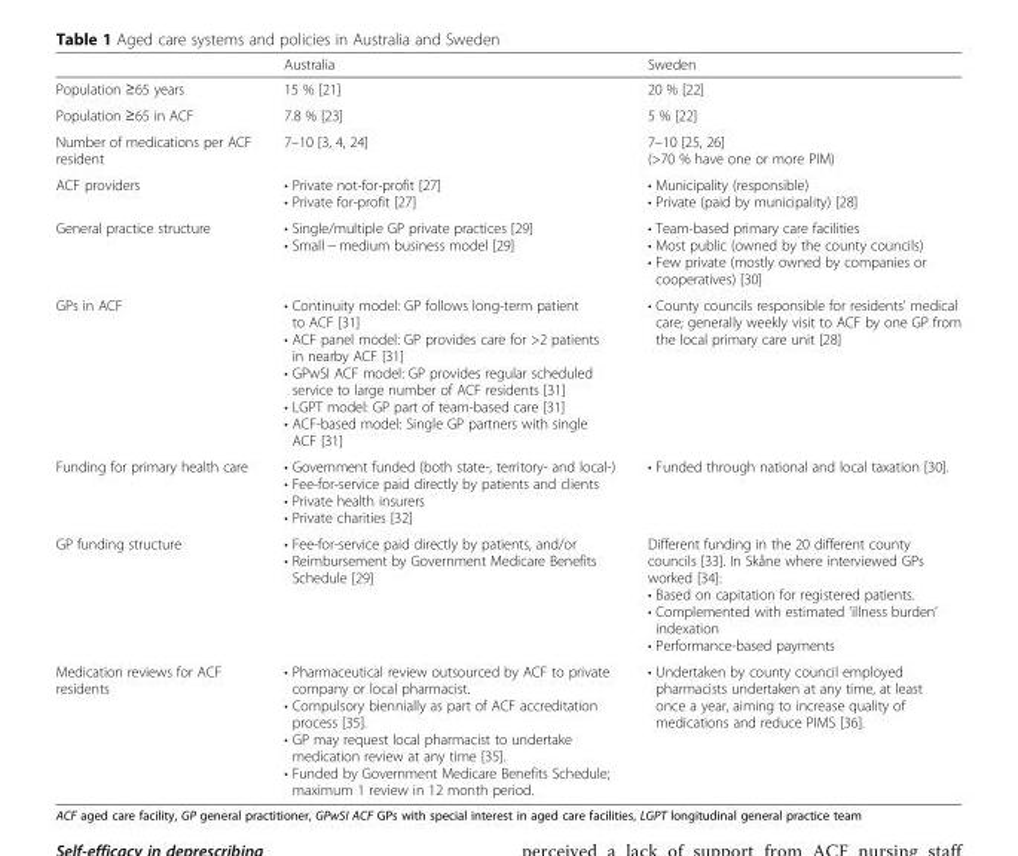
<table><thead><tr><td></td><td>Australia</td><td>Sweden</td></tr></thead><tbody><tr><td>Population ≥65 years</td><td>15 % [21]</td><td>20 % [22]</td></tr><tr><td>Population ≥65 in ACF</td><td>7.8 % [23]</td><td>5 % [22]</td></tr><tr><td>Number of medications per ACF resident</td><td>7–10 [3, 4, 24]</td><td>7–10 [25, 26] (&gt;70 % have one or more PIM)</td></tr><tr><td>ACF providers</td><td>• Private not-for-profit [27] • Private for-profit [27]</td><td>• Municipality (responsible) • Private (paid by municipality) [28]</td></tr><tr><td>General practice structure</td><td>• Single/multiple GP private practices [29] • Small − medium business model [29]</td><td>• Team-based primary care facilities • Most public (owned by the county councils) • Few private (mostly owned by companies or cooperatives) [30]</td></tr><tr><td>GPs in ACF</td><td>• Continuity model: GP follows long-term patient to ACF [31] • ACF panel model: GP provides care for &gt;2 patients in nearby ACF [31] • GPwSI ACF model: GP provides regular scheduled service to large number of ACF residents [31] • LGPT model: GP part of team-based care [31] • ACF-based model: Single GP partners with single ACF [31]</td><td>• County councils responsible for residents’ medical care; generally weekly visit to ACF by one GP from the local primary care unit [28]</td></tr><tr><td>Funding for primary health care</td><td>• Government funded (both state-, territory- and local-) • Fee-for-service paid directly by patients and clients • Private health insurers • Private charities [32]</td><td>• Funded through national and local taxation [30].</td></tr><tr><td>GP funding structure</td><td>• Fee-for-service paid directly by patients, and/or • Reimbursement by Government Medicare Benefits Schedule [29]</td><td>Different funding in the 20 different county councils [33]. In Skåne where interviewed GPs worked [34]: • Based on capitation for registered patients. • Complemented with estimated ‘illness burden’ indexation • Performance-based payments</td></tr><tr><td>Medication reviews for ACF residents</td><td>• Pharmaceutical review outsourced by ACF to private company or local pharmacist. • Compulsory biennially as part of ACF accreditation process [35]. • GP may request local pharmacist to undertake medication review at any time [35]. • Funded by Government Medicare Benefits Schedule; maximum 1 review in 12 month period.</td><td>• Undertaken by county council employed pharmacists undertaken at any time, at least once a year, aiming to increase quality of medications and reduce PIMS [36].</td></tr></tbody></table>